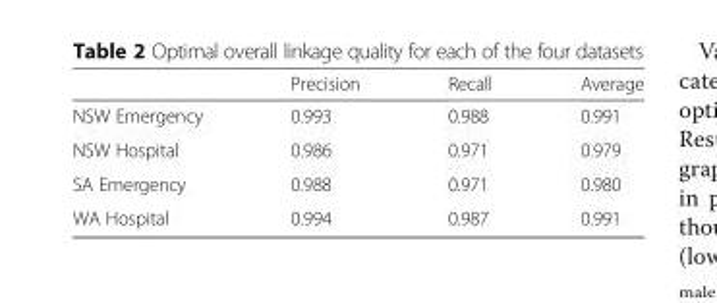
<table><thead><tr><td></td><td>Precision</td><td>Recall</td><td>Average</td></tr></thead><tbody><tr><td>NSW Emergency</td><td>0.993</td><td>0.988</td><td>0.991</td></tr><tr><td>NSW Hospital</td><td>0.986</td><td>0.971</td><td>0.979</td></tr><tr><td>SA Emergency</td><td>0.988</td><td>0.971</td><td>0.980</td></tr><tr><td>WA Hospital</td><td>0.994</td><td>0.987</td><td>0.991</td></tr></tbody></table>